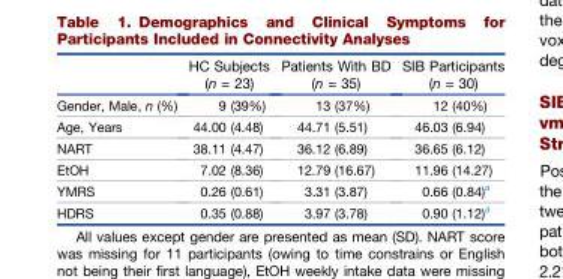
<table><thead><tr><td></td><td>HC Subjects (n = 23)</td><td>Patients With BD (n = 35)</td><td>SIB Participants (n = 30)</td></tr></thead><tbody><tr><td>Gender, Male, n (%)</td><td>9 (39%)</td><td>13 (37%)</td><td>12 (40%)</td></tr><tr><td>Age, Years</td><td>44.00 (4.48)</td><td>44.71 (5.51)</td><td>46.03 (6.94)</td></tr><tr><td>NART</td><td>38.11 (4.47)</td><td>36.12 (6.89)</td><td>36.65 (6.12)</td></tr><tr><td>EtOH</td><td>7.02 (8.36)</td><td>12.79 (16.67)</td><td>11.96 (14.27)</td></tr><tr><td>YMRS</td><td>0.26 (0.61)</td><td>3.31 (3.87)</td><td>0.66 (0.84)<sup>a</sup></td></tr><tr><td>HDRS</td><td>0.35 (0.88)</td><td>3.97 (3.78)</td><td>0.90 (1.12)<sup>a</sup></td></tr></tbody></table>